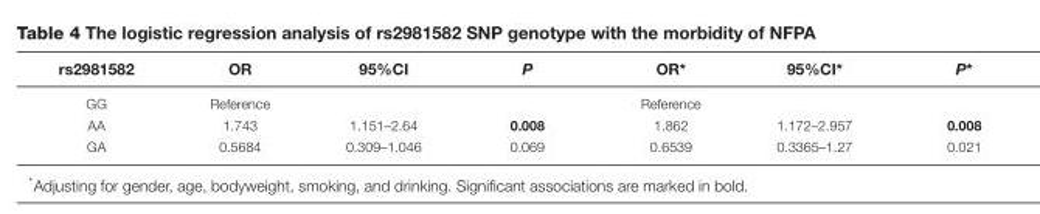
<table><thead><tr><td>rs2981582</td><td>OR</td><td>95%CI</td><td>P</td><td>OR*</td><td>95%CI*</td><td>P*</td></tr></thead><tbody><tr><td>GG</td><td>Reference</td><td></td><td></td><td>Reference</td><td></td><td></td></tr><tr><td>AA</td><td>1.743</td><td>1.151–2.64</td><td>0.008</td><td>1.862</td><td>1.172–2.957</td><td>0.008</td></tr><tr><td>GA</td><td>0.5684</td><td>0.309–1.046</td><td>0.069</td><td>0.6539</td><td>0.3365–1.27</td><td>0.021</td></tr></tbody></table>